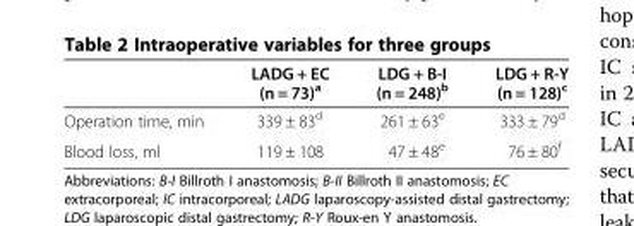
<table><thead><tr><td></td><td>LADG + EC (n = 73)<sup>a</sup></td><td>LDG + B-I (n = 248)<sup>b</sup></td><td>LDG + R-Y (n = 128)<sup>c</sup></td></tr></thead><tbody><tr><td>Operation time, min</td><td>339 ± 83<sup>d</sup></td><td>261 ± 63<sup>e</sup></td><td>333 ± 79<sup>d</sup></td></tr><tr><td>Blood loss, ml</td><td>119 ± 108</td><td>47 ± 48<sup>e</sup></td><td>76 ± 80<sup>f</sup></td></tr></tbody></table>